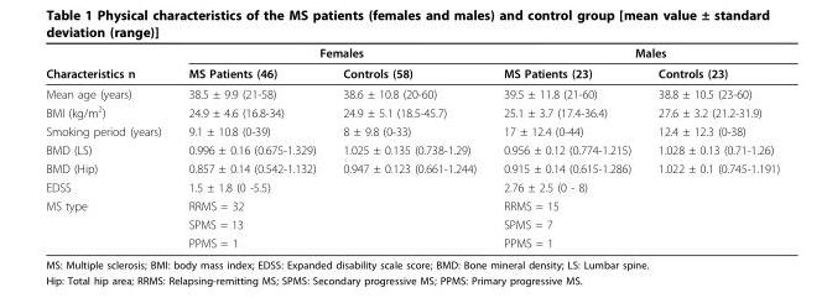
<table><thead><tr><td rowspan="2">Characteristics n</td><td colspan="2">Females</td><td colspan="2">Males</td></tr><tr><td>MS Patients (46)</td><td>Controls (58)</td><td>MS Patients (23)</td><td>Controls (23)</td></tr></thead><tbody><tr><td>Mean age (years)</td><td>38.5 ± 9.9 (21-58)</td><td>38.6 ± 10.8 (20-60)</td><td>39.5 ± 11.8 (21-60)</td><td>38.8 ± 10.5 (23-60)</td></tr><tr><td>BMI (kg/m<sup>2</sup>)</td><td>24.9 ± 4.6 (16.8-34)</td><td>24.9 ± 5.1 (18.5-45.7)</td><td>25.1 ± 3.7 (17.4-36.4)</td><td>27.6 ± 3.2 (21.2-31.9)</td></tr><tr><td>Smoking period (years)</td><td>9.1 ± 10.8 (0-39)</td><td>8 ± 9.8 (0-33)</td><td>17 ± 12.4 (0-44)</td><td>12.4 ± 12.3 (0-38)</td></tr><tr><td>BMD (LS)</td><td>0.996 ± 0.16 (0.675-1.329)</td><td>1.025 ± 0.135 (0.738-1.29)</td><td>0.956 ± 0.12 (0.774-1.215)</td><td>1.028 ± 0.13 (0.71-1.26)</td></tr><tr><td>BMD (Hip)</td><td>0.857 ± 0.14 (0.542-1.132)</td><td>0.947 ± 0.123 (0.661-1.244)</td><td>0.915 ± 0.14 (0.615-1.286)</td><td>1.022 ± 0.1 (0.745-1.191)</td></tr><tr><td>EDSS</td><td>1.5 ± 1.8 (0 -5.5)</td><td></td><td>2.76 ± 2.5 (0 - 8)</td><td></td></tr><tr><td rowspan="3">MS type</td><td>RRMS = 32</td><td></td><td>RRMS = 15</td><td></td></tr><tr><td>SPMS = 13</td><td></td><td>SPMS = 7</td><td></td></tr><tr><td>PPMS = 1</td><td></td><td>PPMS = 1</td><td></td></tr></tbody></table>